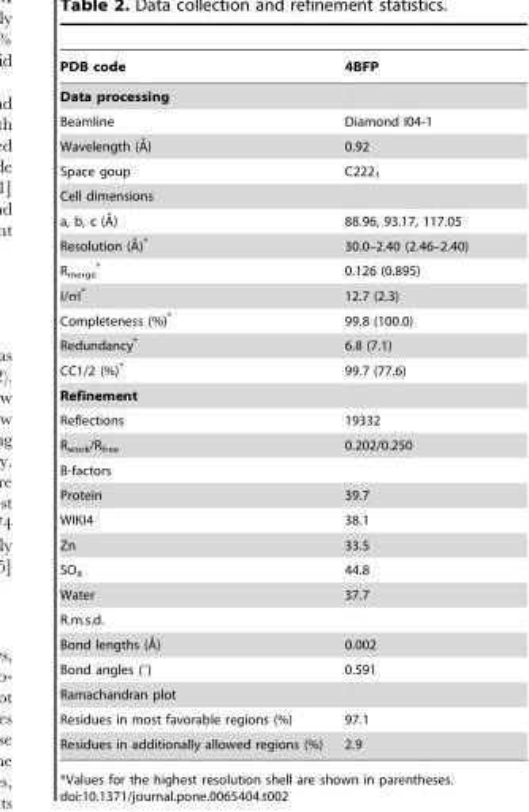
<table><thead><tr><td>PDB code</td><td>4BFP</td></tr></thead><tbody><tr><td colspan="2">Data processing</td></tr><tr><td>Beamline</td><td>Diamond I04-1</td></tr><tr><td>Wavelength (A˚)</td><td>0.92</td></tr><tr><td>Space goup</td><td>C222<sub>1</sub></td></tr><tr><td colspan="2">Cell dimensions</td></tr><tr><td>a, b, c (A˚)</td><td>88.96, 93.17, 117.05</td></tr><tr><td>Resolution (A˚)*</td><td>30.0–2.40 (2.46–2.40)</td></tr><tr><td>R<sub>merge</sub> *</td><td>0.126 (0.895)</td></tr><tr><td>I/σI*</td><td>12.7 (2.3)</td></tr><tr><td>Completeness (%)*</td><td>99.8 (100.0)</td></tr><tr><td>Redundancy*</td><td>6.8 (7.1)</td></tr><tr><td>CC1/2 (%)*</td><td>99.7 (77.6)</td></tr><tr><td colspan="2">Refinement</td></tr><tr><td>Reflections</td><td>19332</td></tr><tr><td>R<sub>work</sub>/R<sub>free</sub></td><td>0.202/0.250</td></tr><tr><td colspan="2">B-factors</td></tr><tr><td>Protein</td><td>39.7</td></tr><tr><td>WIKI4</td><td>38.1</td></tr><tr><td>Zn</td><td>33.5</td></tr><tr><td>SO<sub>4</sub></td><td>44.8</td></tr><tr><td>Water</td><td>37.7</td></tr><tr><td colspan="2">R.m.s.d.</td></tr><tr><td>Bond lengths (A˚)</td><td>0.002</td></tr><tr><td>Bond angles (°)</td><td>0.591</td></tr><tr><td colspan="2">Ramachandran plot</td></tr><tr><td>Residues in most favorable regions (%)</td><td>97.1</td></tr><tr><td>Residues in additionally allowed regions (%)</td><td>2.9</td></tr></tbody></table>